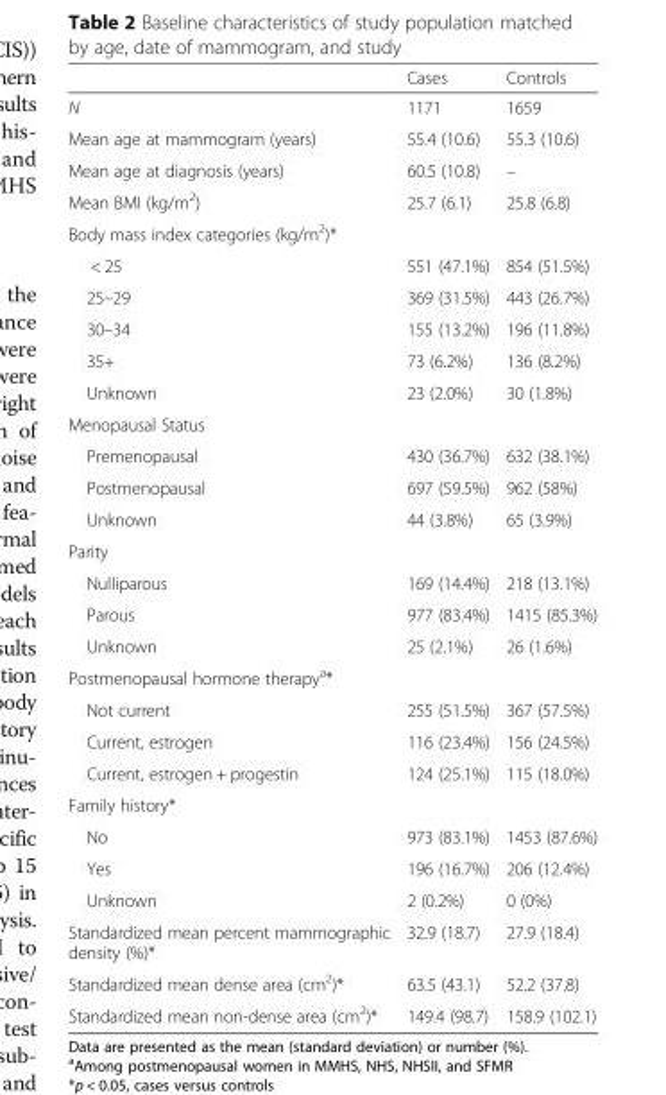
<table><thead><tr><td></td><td>Cases</td><td>Controls</td></tr></thead><tbody><tr><td>N</td><td>1171</td><td>1659</td></tr><tr><td>Mean age at mammogram (years)</td><td>55.4 (10.6)</td><td>55.3 (10.6)</td></tr><tr><td>Mean age at diagnosis (years)</td><td>60.5 (10.8)</td><td>–</td></tr><tr><td>Mean BMI (kg/m<sup>2</sup>)</td><td>25.7 (6.1)</td><td>25.8 (6.8)</td></tr><tr><td colspan="3">Body mass index categories (kg/m<sup>2</sup>)*</td></tr><tr><td>&lt; 25</td><td>551 (47.1%)</td><td>854 (51.5%)</td></tr><tr><td>25–29</td><td>369 (31.5%)</td><td>443 (26.7%)</td></tr><tr><td>30–34</td><td>155 (13.2%)</td><td>196 (11.8%)</td></tr><tr><td>35+</td><td>73 (6.2%)</td><td>136 (8.2%)</td></tr><tr><td>Unknown</td><td>23 (2.0%)</td><td>30 (1.8%)</td></tr><tr><td colspan="3">Menopausal Status</td></tr><tr><td>Premenopausal</td><td>430 (36.7%)</td><td>632 (38.1%)</td></tr><tr><td>Postmenopausal</td><td>697 (59.5%)</td><td>962 (58%)</td></tr><tr><td>Unknown</td><td>44 (3.8%)</td><td>65 (3.9%)</td></tr><tr><td colspan="3">Parity</td></tr><tr><td>Nulliparous</td><td>169 (14.4%)</td><td>218 (13.1%)</td></tr><tr><td>Parous</td><td>977 (83.4%)</td><td>1415 (85.3%)</td></tr><tr><td>Unknown</td><td>25 (2.1%)</td><td>26 (1.6%)</td></tr><tr><td colspan="3">Postmenopausal hormone therapy<sup>a</sup>*</td></tr><tr><td>Not current</td><td>255 (51.5%)</td><td>367 (57.5%)</td></tr><tr><td>Current, estrogen</td><td>116 (23.4%)</td><td>156 (24.5%)</td></tr><tr><td>Current, estrogen + progestin</td><td>124 (25.1%)</td><td>115 (18.0%)</td></tr><tr><td colspan="3">Family history*</td></tr><tr><td>No</td><td>973 (83.1%)</td><td>1453 (87.6%)</td></tr><tr><td>Yes</td><td>196 (16.7%)</td><td>206 (12.4%)</td></tr><tr><td>Unknown</td><td>2 (0.2%)</td><td>0 (0%)</td></tr><tr><td>Standardized mean percent mammographic density (%)*</td><td>32.9 (18.7)</td><td>27.9 (18.4)</td></tr><tr><td>Standardized mean dense area (cm<sup>2</sup>)*</td><td>63.5 (43.1)</td><td>52.2 (37.8)</td></tr><tr><td>Standardized mean non-dense area (cm<sup>2</sup>)*</td><td>149.4 (98.7)</td><td>158.9 (102.1)</td></tr></tbody></table>